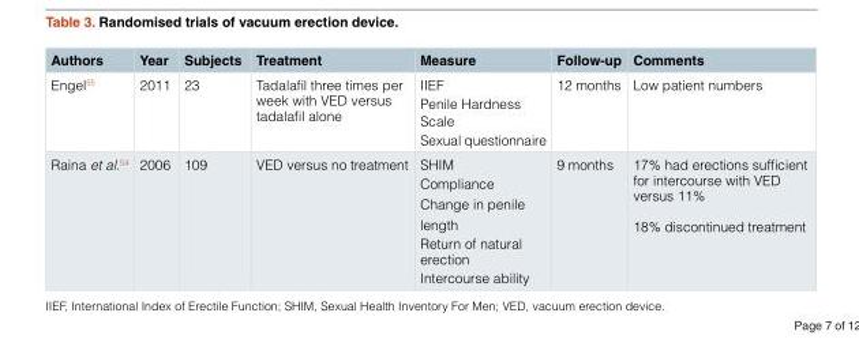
<table><thead><tr><td>Authors</td><td>Year</td><td>Subjects</td><td>Treatment</td><td>Measure</td><td>Follow-up</td><td>Comments</td></tr></thead><tbody><tr><td>Engel<sup>55</sup></td><td>2011</td><td>23</td><td>Tadalafil three times per week with VED versus tadalafil alone</td><td>IIEF Penile Hardness Scale Sexual questionnaire</td><td>12 months</td><td>Low patient numbers</td></tr><tr><td>Raina et al.<sup>54</sup></td><td>2006</td><td>109</td><td>VED versus no treatment</td><td>SHIM Compliance Change in penile length Return of natural erection Intercourse ability</td><td>9 months</td><td>17% had erections sufficient for intercourse with VED versus 11% 18% discontinued treatment</td></tr></tbody></table>